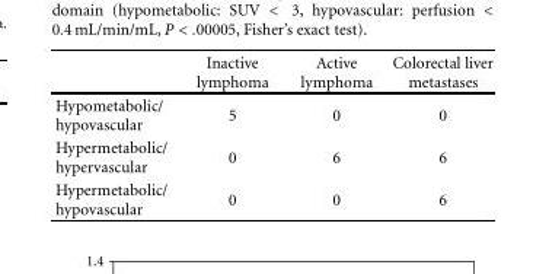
<table><thead><tr><td></td><td>Inactive lymphoma</td><td>Active lymphoma</td><td>Colorectal liver metastases</td></tr></thead><tbody><tr><td>Hypometabolic/ hypovascular</td><td>5</td><td>0</td><td>0</td></tr><tr><td>Hypermetabolic/ hypervascular</td><td>0</td><td>6</td><td>6</td></tr><tr><td>Hypermetabolic/ hypovascular</td><td>0</td><td>0</td><td>6</td></tr></tbody></table>